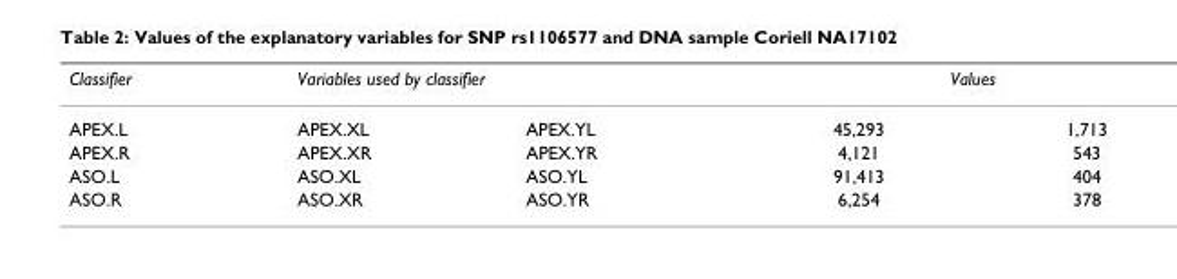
<table><thead><tr><td rowspan="2">Classifier APEX.L</td><td colspan="2">Variables used by classifier</td><td colspan="2">Values</td></tr><tr><td>APEX.XL</td><td>APEX.YL</td><td>45,293</td><td>1,713</td></tr></thead><tbody><tr><td>APEX.R</td><td>APEX.XR</td><td>APEX.YR</td><td>4,121</td><td>543</td></tr><tr><td>ASO.L</td><td>ASO.XL</td><td>ASO.YL</td><td>91,413</td><td>404</td></tr><tr><td>ASO.R</td><td>ASO.XR</td><td>ASO.YR</td><td>6,254</td><td>378</td></tr></tbody></table>